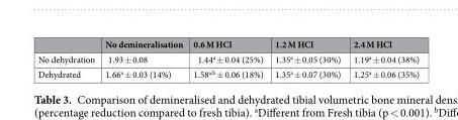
<table><thead><tr><td></td><td>No demineralisation</td><td>0.6 M HCl</td><td>1.2 M HCl</td><td>2.4 M HCl</td></tr></thead><tbody><tr><td>No dehydration</td><td>1.93 ± 0.08</td><td>1.44<sup>a</sup> ± 0.04 (25%)</td><td>1.35<sup>a</sup> ± 0.05 (30%)</td><td>1.19<sup>a</sup> ± 0.04 (38%)</td></tr><tr><td>Dehydrated</td><td>1.66<sup>a</sup> ± 0.03 (14%)</td><td>1.58<sup>a,b</sup> ± 0.06 (18%)</td><td>1.35<sup>a</sup> ± 0.07 (30%)</td><td>1.25<sup>a</sup> ± 0.06 (35%)</td></tr></tbody></table>